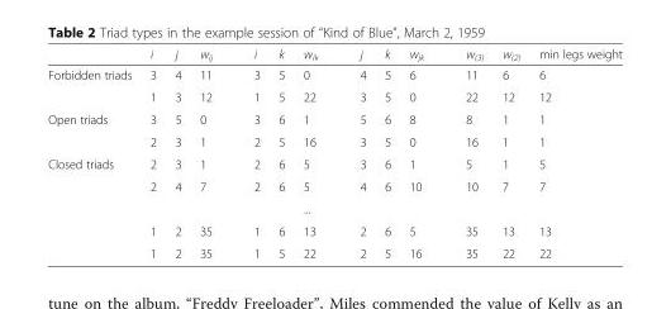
<table><thead><tr><td></td><td>i</td><td>j</td><td>w<sub>ij</sub></td><td>i</td><td>k</td><td>w<sub>ik</sub></td><td>j</td><td>k</td><td>w<sub>jk</sub></td><td>w<sub>(3)</sub></td><td>w<sub>(2)</sub></td><td>min legs weight</td></tr></thead><tbody><tr><td rowspan="2">Forbidden triads</td><td>3</td><td>4</td><td>11</td><td>3</td><td>5</td><td>0</td><td>4</td><td>5</td><td>6</td><td>11</td><td>6</td><td>6</td></tr><tr><td>1</td><td>3</td><td>12</td><td>1</td><td>5</td><td>22</td><td>3</td><td>5</td><td>0</td><td>22</td><td>12</td><td>12</td></tr><tr><td rowspan="2">Open triads</td><td>3</td><td>5</td><td>0</td><td>3</td><td>6</td><td>1</td><td>5</td><td>6</td><td>8</td><td>8</td><td>1</td><td>1</td></tr><tr><td>2</td><td>3</td><td>1</td><td>2</td><td>5</td><td>16</td><td>3</td><td>5</td><td>0</td><td>16</td><td>1</td><td>1</td></tr><tr><td rowspan="5">Closed triads</td><td>2</td><td>3</td><td>1</td><td>2</td><td>6</td><td>5</td><td>3</td><td>6</td><td>1</td><td>5</td><td>1</td><td>5</td></tr><tr><td>2</td><td>4</td><td>7</td><td>2</td><td>6</td><td>5</td><td>4</td><td>6</td><td>10</td><td>10</td><td>7</td><td>7</td></tr><tr><td></td><td></td><td></td><td></td><td></td><td>...</td><td></td><td></td><td></td><td></td><td></td><td></td></tr><tr><td>1</td><td>2</td><td>35</td><td>1</td><td>6</td><td>13</td><td>2</td><td>6</td><td>5</td><td>35</td><td>13</td><td>13</td></tr><tr><td>1</td><td>2</td><td>35</td><td>1</td><td>5</td><td>22</td><td>2</td><td>5</td><td>16</td><td>35</td><td>22</td><td>22</td></tr></tbody></table>